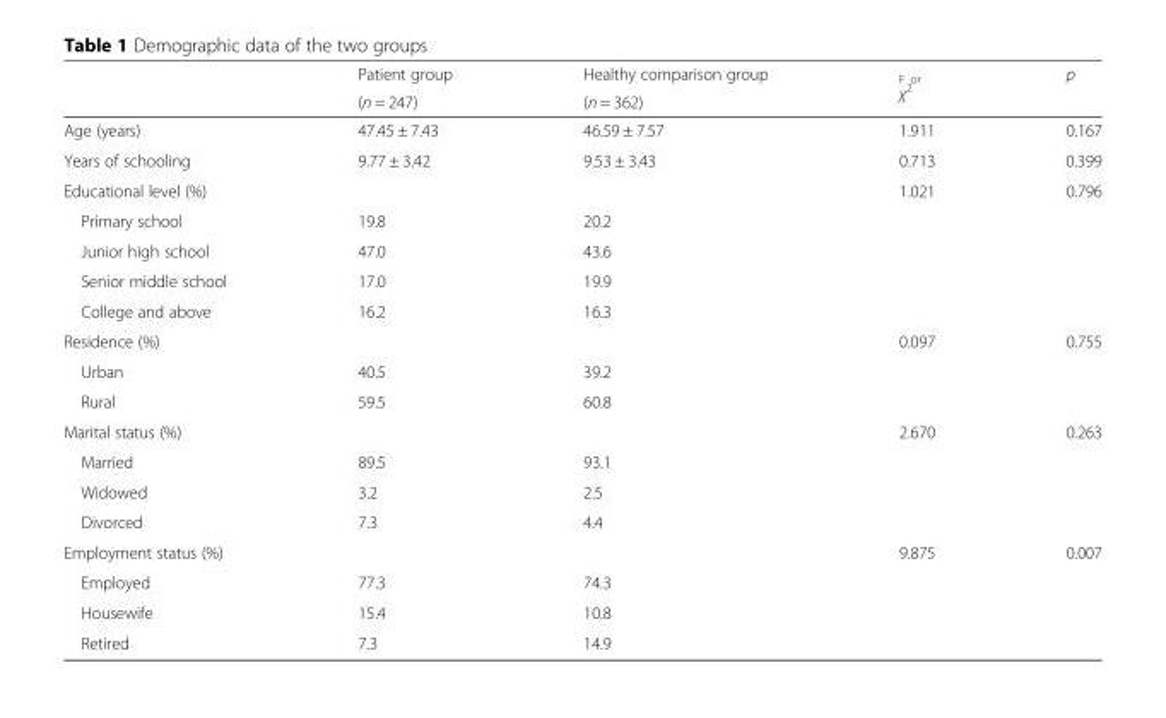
<table><thead><tr><td rowspan="2"></td><td rowspan="2">Patient group (n = 247)</td><td rowspan="2">Healthy comparison group (n = 362)</td><td rowspan="2"><sub>F or</sub> χ<sup>2</sup></td><td rowspan="2">p</td></tr><tr></tr></thead><tbody><tr><td>Age (years)</td><td>47.45 ± 7.43</td><td>46.59 ± 7.57</td><td>1.911</td><td>0.167</td></tr><tr><td>Years of schooling</td><td>9.77 ± 3.42</td><td>9.53 ± 3.43</td><td>0.713</td><td>0.399</td></tr><tr><td>Educational level (%)</td><td></td><td></td><td>1.021</td><td>0.796</td></tr><tr><td>Primary school</td><td>19.8</td><td>20.2</td><td></td><td></td></tr><tr><td>Junior high school</td><td>47.0</td><td>43.6</td><td></td><td></td></tr><tr><td>Senior middle school</td><td>17.0</td><td>19.9</td><td></td><td></td></tr><tr><td>College and above</td><td>16.2</td><td>16.3</td><td></td><td></td></tr><tr><td>Residence (%)</td><td></td><td></td><td>0.097</td><td>0.755</td></tr><tr><td>Urban</td><td>40.5</td><td>39.2</td><td></td><td></td></tr><tr><td>Rural</td><td>59.5</td><td>60.8</td><td></td><td></td></tr><tr><td>Marital status (%)</td><td></td><td></td><td>2.670</td><td>0.263</td></tr><tr><td>Married</td><td>89.5</td><td>93.1</td><td></td><td></td></tr><tr><td>Widowed</td><td>3.2</td><td>2.5</td><td></td><td></td></tr><tr><td>Divorced</td><td>7.3</td><td>4.4</td><td></td><td></td></tr><tr><td>Employment status (%)</td><td></td><td></td><td>9.875</td><td>0.007</td></tr><tr><td>Employed</td><td>77.3</td><td>74.3</td><td></td><td></td></tr><tr><td>Housewife</td><td>15.4</td><td>10.8</td><td></td><td></td></tr><tr><td>Retired</td><td>7.3</td><td>14.9</td><td></td><td></td></tr></tbody></table>